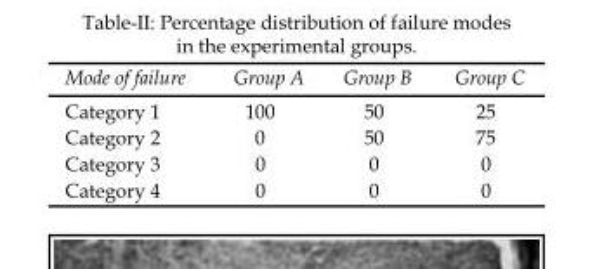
<table><thead><tr><td>Mode of failure</td><td>Group A</td><td>Group B</td><td>Group C</td></tr></thead><tbody><tr><td>Category 1</td><td>100</td><td>50</td><td>25</td></tr><tr><td>Category 2</td><td>0</td><td>50</td><td>75</td></tr><tr><td>Category 3</td><td>0</td><td>0</td><td>0</td></tr><tr><td>Category 4</td><td>0</td><td>0</td><td>0</td></tr></tbody></table>